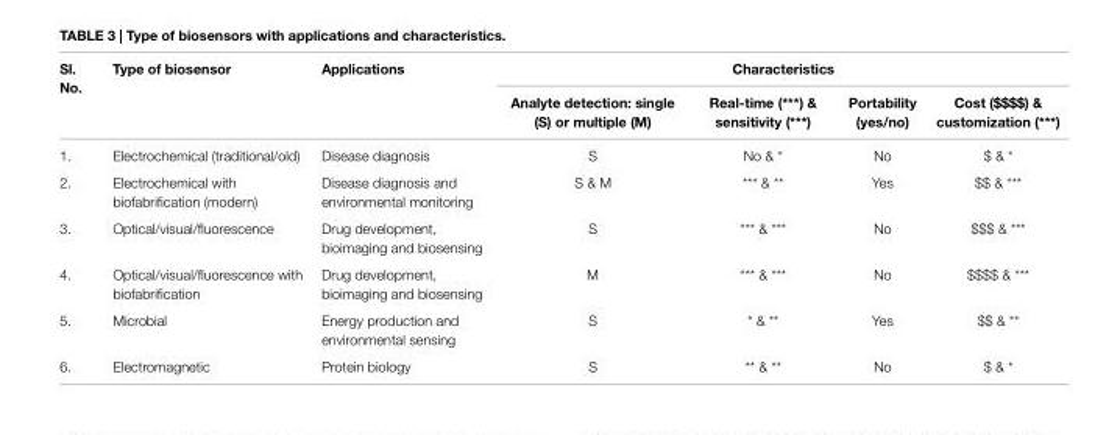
<table><thead><tr><td rowspan="2">Sl. No.</td><td rowspan="2">Type of biosensor</td><td rowspan="2">Applications</td><td colspan="4">Characteristics</td></tr><tr><td>Analyte detection: single (S) or multiple (M)</td><td>Real-time (***) &amp; sensitivity (***)</td><td>Portability (yes/no)</td><td>Cost ($$$$) &amp; customization (***)</td></tr></thead><tbody><tr><td>1.</td><td>Electrochemical (traditional/old)</td><td>Disease diagnosis</td><td>S</td><td>No &amp; *</td><td>No</td><td>$ &amp; *</td></tr><tr><td>2.</td><td>Electrochemical with biofabrification (modern)</td><td>Disease diagnosis and environmental monitoring</td><td>S &amp; M</td><td>*** &amp; **</td><td>Yes</td><td>$$ &amp; ***</td></tr><tr><td>3.</td><td>Optical/visual/fluorescence</td><td>Drug development, bioimaging and biosensing</td><td>S</td><td>*** &amp; ***</td><td>No</td><td>$$$ &amp; ***</td></tr><tr><td>4.</td><td>Optical/visual/fluorescence with biofabrification</td><td>Drug development, bioimaging and biosensing</td><td>M</td><td>*** &amp; ***</td><td>No</td><td>$$$$ &amp; ***</td></tr><tr><td>5.</td><td>Microbial</td><td>Energy production and environmental sensing</td><td>S</td><td>* &amp; **</td><td>Yes</td><td>$$ &amp; **</td></tr><tr><td>6.</td><td>Electromagnetic</td><td>Protein biology</td><td>S</td><td>** &amp; **</td><td>No</td><td>$ &amp; *</td></tr></tbody></table>